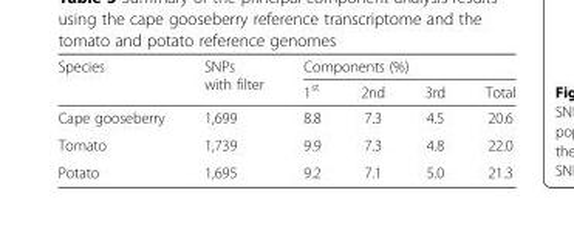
<table><thead><tr><td rowspan="2">Species</td><td rowspan="2">SNPs with filter</td><td colspan="4">Components (%)</td></tr><tr><td>1<sup>st</sup></td><td>2nd</td><td>3rd</td><td>Total</td></tr></thead><tbody><tr><td>Cape gooseberry</td><td>1,699</td><td>8.8</td><td>7.3</td><td>4.5</td><td>20.6</td></tr><tr><td>Tomato</td><td>1,739</td><td>9.9</td><td>7.3</td><td>4.8</td><td>22.0</td></tr><tr><td>Potato</td><td>1,695</td><td>9.2</td><td>7.1</td><td>5.0</td><td>21.3</td></tr></tbody></table>